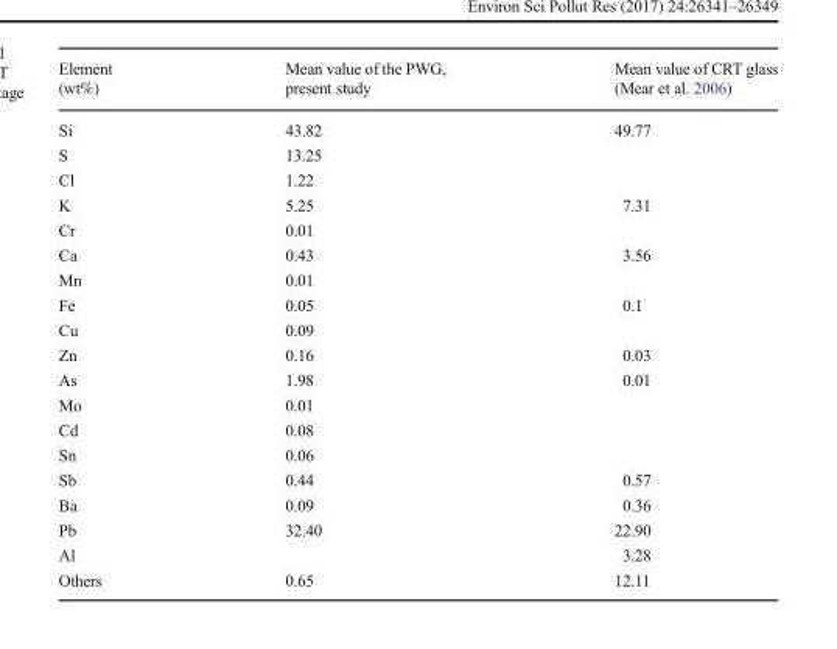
<table><thead><tr><td>Element (wt%)</td><td>Mean value of the PWG, present study</td><td>Mean value of CRT glass (Mear et al. 2006)</td></tr></thead><tbody><tr><td>Si</td><td>43.82</td><td>49.77</td></tr><tr><td>S</td><td>13.25</td><td></td></tr><tr><td>Cl</td><td>1.22</td><td></td></tr><tr><td>K</td><td>5.25</td><td>7.31</td></tr><tr><td>Cr</td><td>0.01</td><td></td></tr><tr><td>Ca</td><td>0.43</td><td>3.56</td></tr><tr><td>Mn</td><td>0.01</td><td></td></tr><tr><td>Fe</td><td>0.05</td><td>0.1</td></tr><tr><td>Cu</td><td>0.09</td><td></td></tr><tr><td>Zn</td><td>0.16</td><td>0.03</td></tr><tr><td>As</td><td>1.98</td><td>0.01</td></tr><tr><td>Mo</td><td>0.01</td><td></td></tr><tr><td>Cd</td><td>0.08</td><td></td></tr><tr><td>Sn</td><td>0.06</td><td></td></tr><tr><td>Sb</td><td>0.44</td><td>0.57</td></tr><tr><td>Ba</td><td>0.09</td><td>0.36</td></tr><tr><td>Pb</td><td>32.40</td><td>22.90</td></tr><tr><td>Al</td><td></td><td>3.28</td></tr><tr><td>Others</td><td>0.65</td><td>12.11</td></tr></tbody></table>